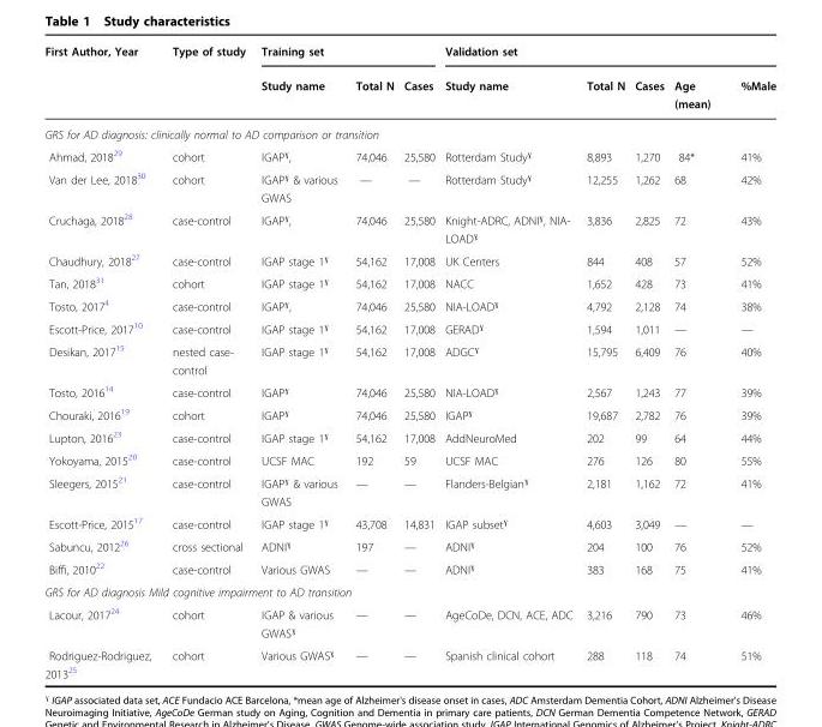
<table><thead><tr><td rowspan="2">First Author, Year</td><td rowspan="2">Type of study</td><td colspan="3">Training set</td><td colspan="5">Validation set</td></tr><tr><td>Study name</td><td>Total N</td><td>Cases</td><td>Study name</td><td>Total N</td><td>Cases</td><td>Age (mean)</td><td>%Male</td></tr></thead><tbody><tr><td colspan="10">GRS for AD diagnosis: clinically normal to AD comparison or transition</td></tr><tr><td>Ahmad, 2018<sup>29</sup></td><td>cohort</td><td>IGAPˠ,</td><td>74,046</td><td>25,580</td><td>Rotterdam Studyˠ</td><td>8,893</td><td>1,270</td><td>84*</td><td>41%</td></tr><tr><td>Van der Lee, 2018<sup>30</sup></td><td>cohort</td><td>IGAPˠ &amp; various GWAS</td><td>—</td><td>—</td><td>Rotterdam Studyˠ</td><td>12,255</td><td>1,262</td><td>68</td><td>42%</td></tr><tr><td>Cruchaga, 2018<sup>28</sup></td><td>case-control</td><td>IGAPˠ,</td><td>74,046</td><td>25,580</td><td>Knight-ADRC, ADNIˠ, NIA- LOADˠ</td><td>3,836</td><td>2,825</td><td>72</td><td>43%</td></tr><tr><td>Chaudhury, 2018<sup>27</sup></td><td>case-control</td><td>IGAP stage 1ˠ</td><td>54,162</td><td>17,008</td><td>UK Centers</td><td>844</td><td>408</td><td>57</td><td>52%</td></tr><tr><td>Tan, 2018<sup>31</sup></td><td>cohort</td><td>IGAP stage 1ˠ</td><td>54,162</td><td>17,008</td><td>NACC</td><td>1,652</td><td>428</td><td>73</td><td>41%</td></tr><tr><td>Tosto, 2017<sup>4</sup></td><td>case-control</td><td>IGAPˠ,</td><td>74,046</td><td>25,580</td><td>NIA-LOADˠ</td><td>4,792</td><td>2,128</td><td>74</td><td>38%</td></tr><tr><td>Escott-Price, 2017<sup>10</sup></td><td>case-control</td><td>IGAP stage 1ˠ</td><td>54,162</td><td>17,008</td><td>GERADˠ</td><td>1,594</td><td>1,011</td><td>—</td><td>—</td></tr><tr><td>Desikan, 2017<sup>15</sup></td><td>nested case- control</td><td>IGAP stage 1ˠ</td><td>54,162</td><td>17,008</td><td>ADGCˠ</td><td>15,795</td><td>6,409</td><td>76</td><td>40%</td></tr><tr><td>Tosto, 2016<sup>14</sup></td><td>case-control</td><td>IGAPˠ</td><td>74,046</td><td>25,580</td><td>NIA-LOADˠ</td><td>2,567</td><td>1,243</td><td>77</td><td>39%</td></tr><tr><td>Chouraki, 2016<sup>19</sup></td><td>cohort</td><td>IGAPˠ</td><td>74,046</td><td>25,580</td><td>IGAPˠ</td><td>19,687</td><td>2,782</td><td>76</td><td>39%</td></tr><tr><td>Lupton, 2016<sup>23</sup></td><td>case-control</td><td>IGAP stage 1ˠ</td><td>54,162</td><td>17,008</td><td>AddNeuroMed</td><td>202</td><td>99</td><td>64</td><td>44%</td></tr><tr><td>Yokoyama, 2015<sup>20</sup></td><td>case-control</td><td>UCSF MAC</td><td>192</td><td>59</td><td>UCSF MAC</td><td>276</td><td>126</td><td>80</td><td>55%</td></tr><tr><td>Sleegers, 2015<sup>21</sup></td><td>case-control</td><td>IGAPˠ &amp; various GWAS</td><td>—</td><td>—</td><td>Flanders-Belgianˠ</td><td>2,181</td><td>1,162</td><td>72</td><td>41%</td></tr><tr><td>Escott-Price, 2015<sup>17</sup></td><td>case-control</td><td>IGAP stage 1ˠ</td><td>43,708</td><td>14,831</td><td>IGAP subsetˠ</td><td>4,603</td><td>3,049</td><td>—</td><td>—</td></tr><tr><td>Sabuncu, 2012<sup>26</sup></td><td>cross sectional</td><td>ADNIˠ</td><td>197</td><td>—</td><td>ADNIˠ</td><td>204</td><td>100</td><td>76</td><td>52%</td></tr><tr><td>Biffi, 2010<sup>22</sup></td><td>case-control</td><td>Various GWAS</td><td>—</td><td>—</td><td>ADNIˠ</td><td>383</td><td>168</td><td>75</td><td>41%</td></tr><tr><td colspan="10">GRS for AD diagnosis Mild cognitive impairment to AD transition</td></tr><tr><td>Lacour, 2017<sup>24</sup></td><td>cohort</td><td>IGAP &amp; various GWASˠ</td><td>—</td><td>—</td><td>AgeCoDe, DCN, ACE, ADC</td><td>3,216</td><td>790</td><td>73</td><td>46%</td></tr><tr><td>Rodriguez-Rodriguez, 2013<sup>25</sup></td><td>cohort</td><td>Various GWASˠ</td><td>—</td><td>—</td><td>Spanish clinical cohort</td><td>288</td><td>118</td><td>74</td><td>51%</td></tr></tbody></table>